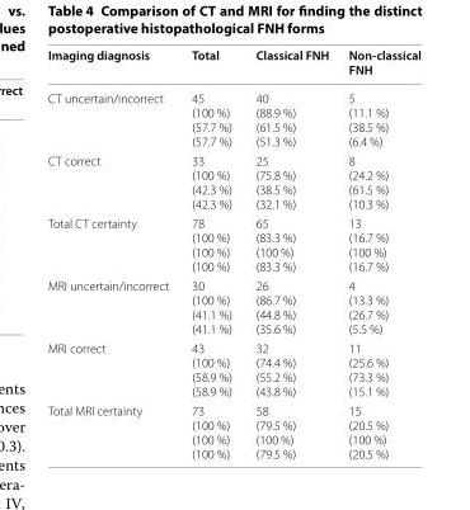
<table><thead><tr><td>Imaging diagnosis</td><td>Total</td><td>Classical FNH</td><td>Non-classical FNH</td></tr></thead><tbody><tr><td>CT uncertain/incorrect</td><td>45 (100 %) (57.7 %) (57.7 %)</td><td>40 (88.9 %) (61.5 %) (51.3 %)</td><td>5 (11.1 %) (38.5 %) (6.4 %)</td></tr><tr><td>CT correct</td><td>33 (100 %) (42.3 %) (42.3 %)</td><td>25 (75.8 %) (38.5 %) (32.1 %)</td><td>8 (24.2 %) (61.5 %) (10.3 %)</td></tr><tr><td>Total CT certainty</td><td>78 (100 %) (100 %) (100 %)</td><td>65 (83.3 %) (100 %) (83.3 %)</td><td>13 (16.7 %) (100 %) (16.7 %)</td></tr><tr><td>MRI uncertain/incorrect</td><td>30 (100 %) (41.1 %) (41.1 %)</td><td>26 (86.7 %) (44.8 %) (35.6 %)</td><td>4 (13.3 %) (26.7 %) (5.5 %)</td></tr><tr><td>MRI correct</td><td>43 (100 %) (58.9 %) (58.9 %)</td><td>32 (74.4 %) (55.2 %) (43.8 %)</td><td>11 (25.6 %) (73.3 %) (15.1 %)</td></tr><tr><td>Total MRI certainty</td><td>73 (100 %) (100 %) (100 %)</td><td>58 (79.5 %) (100 %) (79.5 %)</td><td>15 (20.5 %) (100 %) (20.5 %)</td></tr></tbody></table>